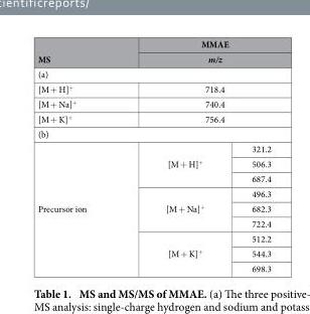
<table><thead><tr><td rowspan="2">MS</td><td rowspan="2" colspan="2">MMAE m/z</td></tr><tr></tr></thead><tbody><tr><td colspan="3">(a)</td></tr><tr><td>[M + H]<sup>+</sup></td><td colspan="2">718.4</td></tr><tr><td>[M + Na]<sup>+</sup></td><td colspan="2">740.4</td></tr><tr><td>[M + K]<sup>+</sup></td><td colspan="2">756.4</td></tr><tr><td colspan="3">(b)</td></tr><tr><td rowspan="9">Precursor ion</td><td rowspan="3">[M + H]<sup>+</sup></td><td>321.2</td></tr><tr><td>506.3</td></tr><tr><td>687.4</td></tr><tr><td rowspan="3">[M + Na]<sup>+</sup></td><td>496.3</td></tr><tr><td>682.3</td></tr><tr><td>722.4</td></tr><tr><td rowspan="3">[M + K]<sup>+</sup></td><td>512.2</td></tr><tr><td>544.3</td></tr><tr><td>698.3</td></tr></tbody></table>